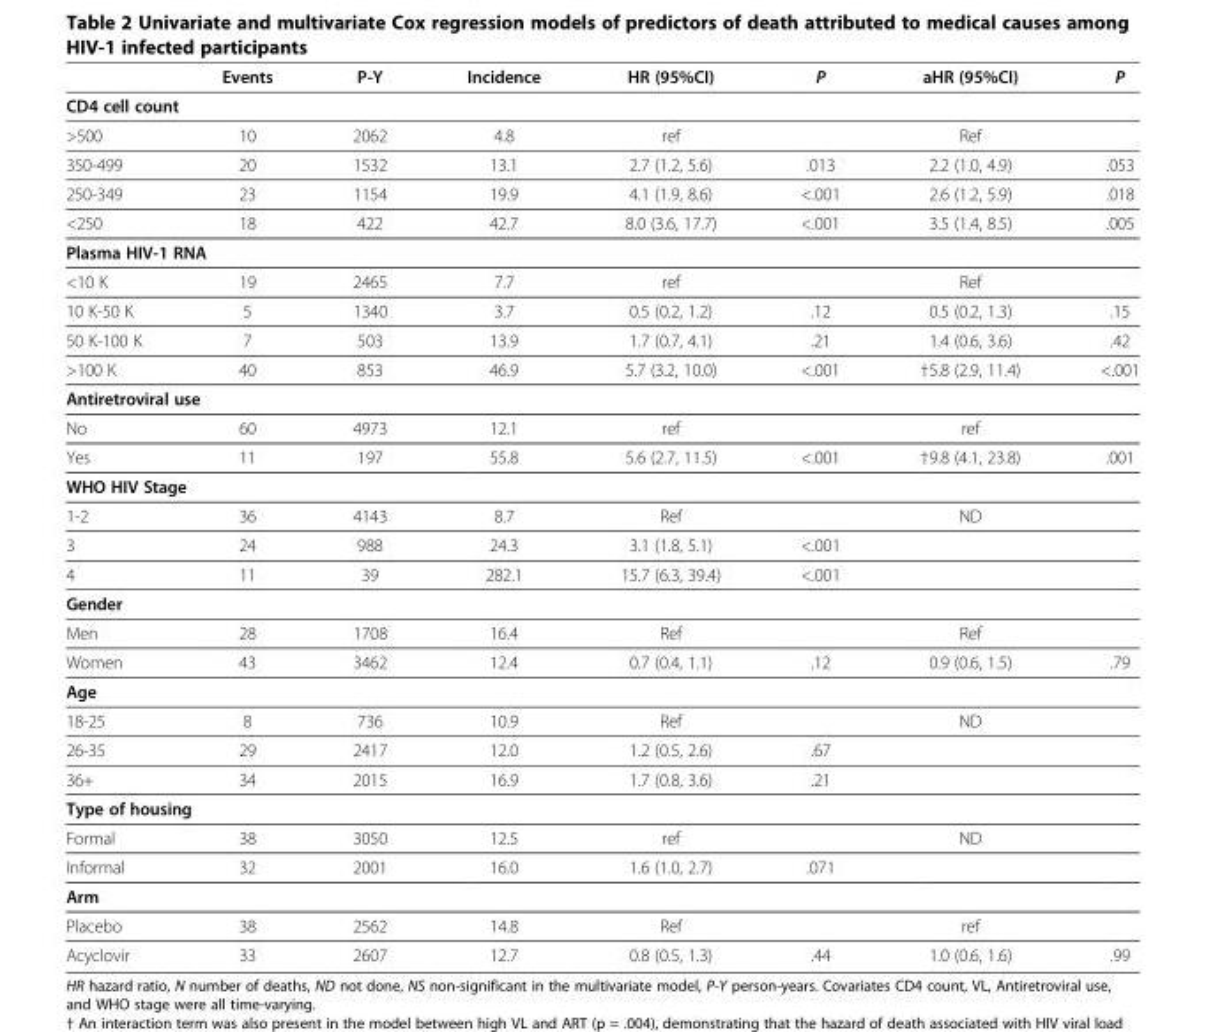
<table><thead><tr><td></td><td>Events</td><td>P-Y</td><td>Incidence</td><td>HR (95%CI)</td><td>P</td><td>aHR (95%CI)</td><td>P</td></tr></thead><tbody><tr><td colspan="8">CD4 cell count</td></tr><tr><td>&gt;500</td><td>10</td><td>2062</td><td>4.8</td><td>ref</td><td></td><td>Ref</td><td></td></tr><tr><td>350-499</td><td>20</td><td>1532</td><td>13.1</td><td>2.7 (1.2, 5.6)</td><td>.013</td><td>2.2 (1.0, 4.9)</td><td>.053</td></tr><tr><td>250-349</td><td>23</td><td>1154</td><td>19.9</td><td>4.1 (1.9, 8.6)</td><td>&lt;.001</td><td>2.6 (1.2, 5.9)</td><td>.018</td></tr><tr><td>&lt;250</td><td>18</td><td>422</td><td>42.7</td><td>8.0 (3.6, 17.7)</td><td>&lt;.001</td><td>3.5 (1.4, 8.5)</td><td>.005</td></tr><tr><td colspan="8">Plasma HIV-1 RNA</td></tr><tr><td>&lt;10 K</td><td>19</td><td>2465</td><td>7.7</td><td>ref</td><td></td><td>Ref</td><td></td></tr><tr><td>10 K-50 K</td><td>5</td><td>1340</td><td>3.7</td><td>0.5 (0.2, 1.2)</td><td>.12</td><td>0.5 (0.2, 1.3)</td><td>.15</td></tr><tr><td>50 K-100 K</td><td>7</td><td>503</td><td>13.9</td><td>1.7 (0.7, 4.1)</td><td>.21</td><td>1.4 (0.6, 3.6)</td><td>.42</td></tr><tr><td>&gt;100 K</td><td>40</td><td>853</td><td>46.9</td><td>5.7 (3.2, 10.0)</td><td>&lt;.001</td><td>†5.8 (2.9, 11.4)</td><td>&lt;.001</td></tr><tr><td colspan="8">Antiretroviral use</td></tr><tr><td>No</td><td>60</td><td>4973</td><td>12.1</td><td>ref</td><td></td><td>ref</td><td></td></tr><tr><td>Yes</td><td>11</td><td>197</td><td>55.8</td><td>5.6 (2.7, 11.5)</td><td>&lt;.001</td><td>†9.8 (4.1, 23.8)</td><td>.001</td></tr><tr><td colspan="8">WHO HIV Stage</td></tr><tr><td>1-2</td><td>36</td><td>4143</td><td>8.7</td><td>Ref</td><td></td><td>ND</td><td></td></tr><tr><td>3</td><td>24</td><td>988</td><td>24.3</td><td>3.1 (1.8, 5.1)</td><td>&lt;.001</td><td></td><td></td></tr><tr><td>4</td><td>11</td><td>39</td><td>282.1</td><td>15.7 (6.3, 39.4)</td><td>&lt;.001</td><td></td><td></td></tr><tr><td colspan="8">Gender</td></tr><tr><td>Men</td><td>28</td><td>1708</td><td>16.4</td><td>Ref</td><td></td><td>Ref</td><td></td></tr><tr><td>Women</td><td>43</td><td>3462</td><td>12.4</td><td>0.7 (0.4, 1.1)</td><td>.12</td><td>0.9 (0.6, 1.5)</td><td>.79</td></tr><tr><td colspan="8">Age</td></tr><tr><td>18-25</td><td>8</td><td>736</td><td>10.9</td><td>Ref</td><td></td><td>ND</td><td></td></tr><tr><td>26-35</td><td>29</td><td>2417</td><td>12.0</td><td>1.2 (0.5, 2.6)</td><td>.67</td><td></td><td></td></tr><tr><td>36+</td><td>34</td><td>2015</td><td>16.9</td><td>1.7 (0.8, 3.6)</td><td>.21</td><td></td><td></td></tr><tr><td colspan="8">Type of housing</td></tr><tr><td>Formal</td><td>38</td><td>3050</td><td>12.5</td><td>ref</td><td></td><td>ND</td><td></td></tr><tr><td>Informal</td><td>32</td><td>2001</td><td>16.0</td><td>1.6 (1.0, 2.7)</td><td>.071</td><td></td><td></td></tr><tr><td colspan="8">Arm</td></tr><tr><td>Placebo</td><td>38</td><td>2562</td><td>14.8</td><td>Ref</td><td></td><td>ref</td><td></td></tr><tr><td>Acyclovir</td><td>33</td><td>2607</td><td>12.7</td><td>0.8 (0.5, 1.3)</td><td>.44</td><td>1.0 (0.6, 1.6)</td><td>.99</td></tr></tbody></table>